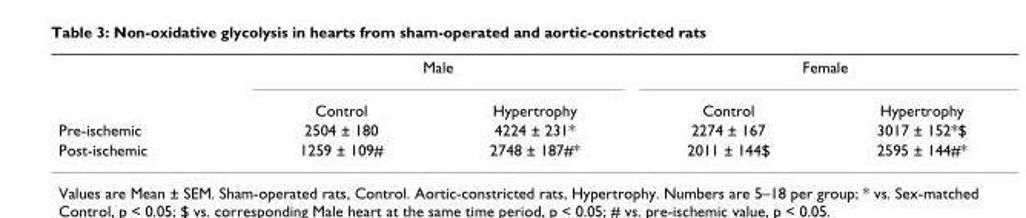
<table><thead><tr><td rowspan="2"></td><td colspan="2">Male</td><td colspan="2">Female</td></tr><tr><td>Control</td><td>Hypertrophy</td><td>Control</td><td>Hypertrophy</td></tr></thead><tbody><tr><td>Pre-ischemic</td><td>2504 ± 180</td><td>4224 ± 231*</td><td>2274 ± 167</td><td>3017 ± 152*$</td></tr><tr><td>Post-ischemic</td><td>1259 ± 109#</td><td>2748 ± 187#*</td><td>2011 ± 144$</td><td>2595 ± 144#*</td></tr></tbody></table>